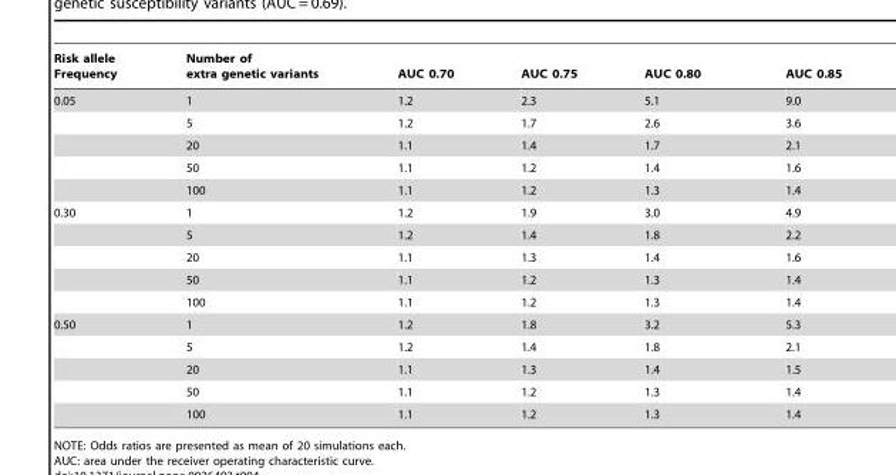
<table><thead><tr><td>Risk allele Frequency</td><td>Number of extra genetic variants</td><td>AUC 0.70</td><td>AUC 0.75</td><td>AUC 0.80</td><td>AUC 0.85</td></tr></thead><tbody><tr><td rowspan="5">0.05</td><td>1</td><td>1.2</td><td>2.3</td><td>5.1</td><td>9.0</td></tr><tr><td>5</td><td>1.2</td><td>1.7</td><td>2.6</td><td>3.6</td></tr><tr><td>20</td><td>1.1</td><td>1.4</td><td>1.7</td><td>2.1</td></tr><tr><td>50</td><td>1.1</td><td>1.2</td><td>1.4</td><td>1.6</td></tr><tr><td>100</td><td>1.1</td><td>1.2</td><td>1.3</td><td>1.4</td></tr><tr><td rowspan="5">0.30</td><td>1</td><td>1.2</td><td>1.9</td><td>3.0</td><td>4.9</td></tr><tr><td>5</td><td>1.2</td><td>1.4</td><td>1.8</td><td>2.2</td></tr><tr><td>20</td><td>1.1</td><td>1.3</td><td>1.4</td><td>1.6</td></tr><tr><td>50</td><td>1.1</td><td>1.2</td><td>1.3</td><td>1.4</td></tr><tr><td>100</td><td>1.1</td><td>1.2</td><td>1.3</td><td>1.4</td></tr><tr><td rowspan="5">0.50</td><td>1</td><td>1.2</td><td>1.8</td><td>3.2</td><td>5.3</td></tr><tr><td>5</td><td>1.2</td><td>1.4</td><td>1.8</td><td>2.1</td></tr><tr><td>20</td><td>1.1</td><td>1.3</td><td>1.4</td><td>1.5</td></tr><tr><td>50</td><td>1.1</td><td>1.2</td><td>1.3</td><td>1.4</td></tr><tr><td>100</td><td>1.1</td><td>1.2</td><td>1.3</td><td>1.4</td></tr></tbody></table>